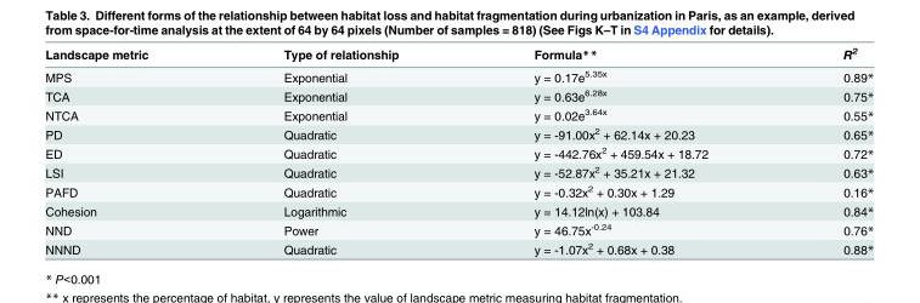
<table><thead><tr><td>Landscape metric</td><td>Type of relationship</td><td>Formula**</td><td>R<sup>2</sup></td></tr></thead><tbody><tr><td>MPS</td><td>Exponential</td><td>y = 0.17e<sup>5.35x</sup></td><td>0.89*</td></tr><tr><td>TCA</td><td>Exponential</td><td>y = 0.63e<sup>6.28x</sup></td><td>0.75*</td></tr><tr><td>NTCA</td><td>Exponential</td><td>y = 0.02e<sup>3.64x</sup></td><td>0.55*</td></tr><tr><td>PD</td><td>Quadratic</td><td>y = -91.00x<sup>2</sup> + 62.14x + 20.23</td><td>0.65*</td></tr><tr><td>ED</td><td>Quadratic</td><td>y = -442.76x<sup>2</sup> + 459.54x + 18.72</td><td>0.72*</td></tr><tr><td>LSI</td><td>Quadratic</td><td>y = -52.87x<sup>2</sup> + 35.21x + 21.32</td><td>0.63*</td></tr><tr><td>PAFD</td><td>Quadratic</td><td>y = -0.32x<sup>2</sup> + 0.30x + 1.29</td><td>0.16*</td></tr><tr><td>Cohesion</td><td>Logarithmic</td><td>y = 14.12ln(x) + 103.84</td><td>0.84*</td></tr><tr><td>NND</td><td>Power</td><td>y = 46.75x<sup>-0.24</sup></td><td>0.76*</td></tr><tr><td>NNND</td><td>Quadratic</td><td>y = -1.07x<sup>2</sup> + 0.68x + 0.38</td><td>0.88*</td></tr></tbody></table>